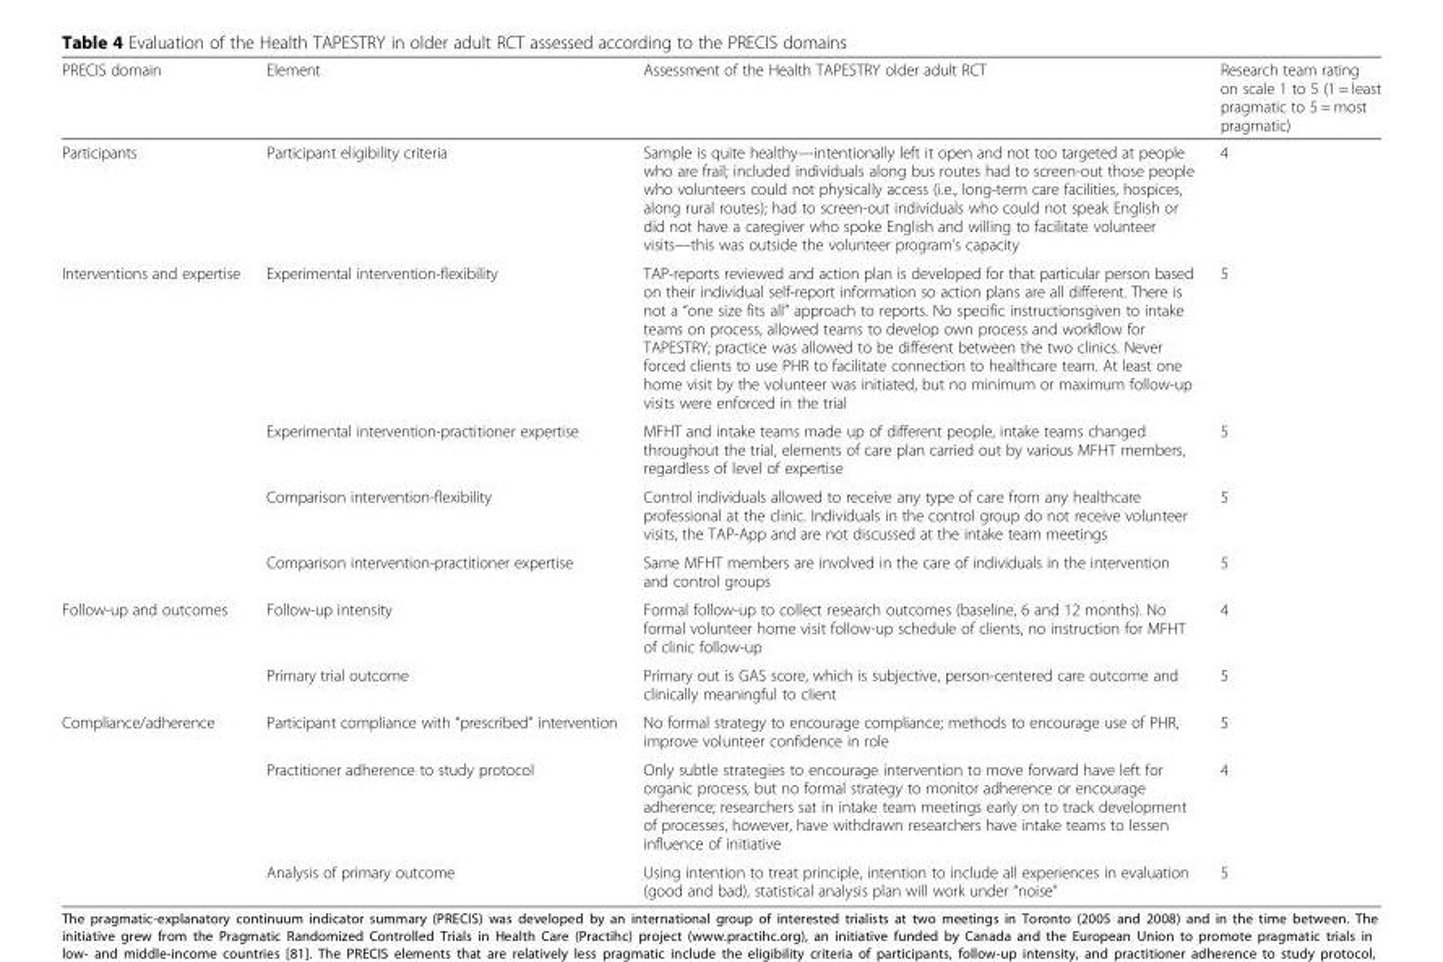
<table><thead><tr><td>PRECIS domain</td><td>Element</td><td>Assessment of the Health TAPESTRY older adult RCT</td><td>Research team rating on scale 1 to 5 (1 = least pragmatic to 5 = most pragmatic)</td></tr></thead><tbody><tr><td>Participants</td><td>Participant eligibility criteria</td><td>Sample is quite healthy—intentionally left it open and not too targeted at people who are frail; included individuals along bus routes had to screen-out those people who volunteers could not physically access (i.e., long-term care facilities, hospices, along rural routes); had to screen-out individuals who could not speak English or did not have a caregiver who spoke English and willing to facilitate volunteer visits—this was outside the volunteer program’s capacity</td><td>4</td></tr><tr><td rowspan="4">Interventions and expertise</td><td>Experimental intervention-flexibility</td><td>TAP-reports reviewed and action plan is developed for that particular person based on their individual self-report information so action plans are all different. There is not a “one size fits all” approach to reports. No specific instructionsgiven to intake teams on process, allowed teams to develop own process and workflow for TAPESTRY; practice was allowed to be different between the two clinics. Never forced clients to use PHR to facilitate connection to healthcare team. At least one home visit by the volunteer was initiated, but no minimum or maximum follow-up visits were enforced in the trial</td><td>5</td></tr><tr><td>Experimental intervention-practitioner expertise</td><td>MFHT and intake teams made up of different people, intake teams changed throughout the trial, elements of care plan carried out by various MFHT members, regardless of level of expertise</td><td>5</td></tr><tr><td>Comparison intervention-flexibility</td><td>Control individuals allowed to receive any type of care from any healthcare professional at the clinic. Individuals in the control group do not receive volunteer visits, the TAP-App and are not discussed at the intake team meetings</td><td>5</td></tr><tr><td>Comparison intervention-practitioner expertise</td><td>Same MFHT members are involved in the care of individuals in the intervention and control groups</td><td>5</td></tr><tr><td rowspan="2">Follow-up and outcomes</td><td>Follow-up intensity</td><td>Formal follow-up to collect research outcomes (baseline, 6 and 12 months). No formal volunteer home visit follow-up schedule of clients, no instruction for MFHT of clinic follow-up</td><td>4</td></tr><tr><td>Primary trial outcome</td><td>Primary out is GAS score, which is subjective, person-centered care outcome and clinically meaningful to client</td><td>5</td></tr><tr><td rowspan="3">Compliance/adherence</td><td>Participant compliance with “prescribed” intervention</td><td>No formal strategy to encourage compliance; methods to encourage use of PHR, improve volunteer confidence in role</td><td>5</td></tr><tr><td>Practitioner adherence to study protocol</td><td>Only subtle strategies to encourage intervention to move forward have left for organic process, but no formal strategy to monitor adherence or encourage adherence; researchers sat in intake team meetings early on to track development of processes, however, have withdrawn researchers have intake teams to lessen influence of initiative</td><td>4</td></tr><tr><td>Analysis of primary outcome</td><td>Using intention to treat principle, intention to include all experiences in evaluation (good and bad), statistical analysis plan will work under “noise”</td><td>5</td></tr></tbody></table>